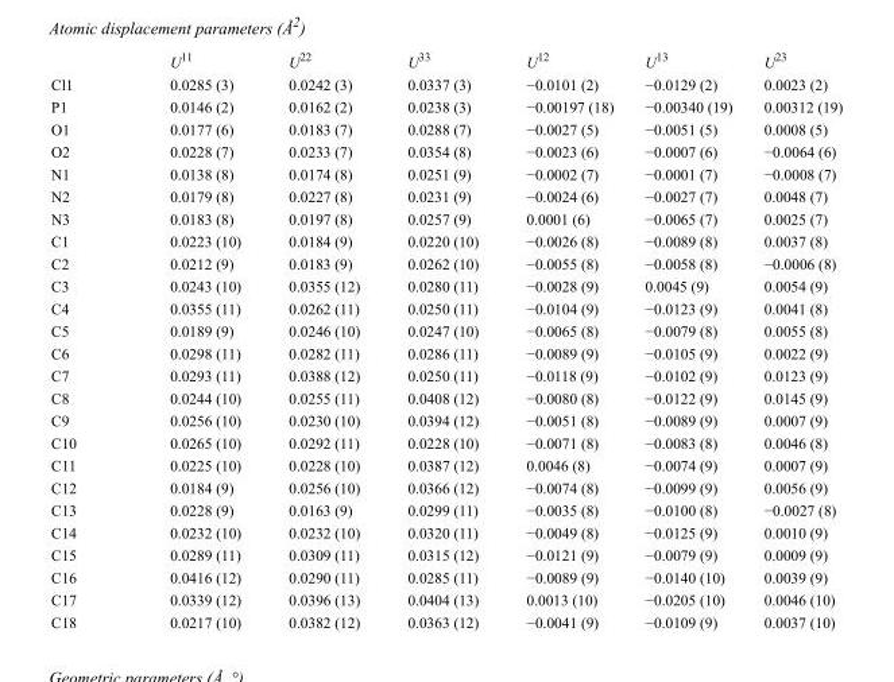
<table><thead><tr><td></td><td>U<sup>11</sup></td><td>U<sup>22</sup></td><td>U<sup>33</sup></td><td>U<sup>12</sup></td><td>U<sup>13</sup></td><td>U<sup>23</sup></td></tr></thead><tbody><tr><td>Cl1</td><td>0.0285 (3)</td><td>0.0242 (3)</td><td>0.0337 (3)</td><td>−0.0101 (2)</td><td>−0.0129 (2)</td><td>0.0023 (2)</td></tr><tr><td>P1</td><td>0.0146 (2)</td><td>0.0162 (2)</td><td>0.0238 (3)</td><td>−0.00197 (18)</td><td>−0.00340 (19)</td><td>0.00312 (19)</td></tr><tr><td>O1</td><td>0.0177 (6)</td><td>0.0183 (7)</td><td>0.0288 (7)</td><td>−0.0027 (5)</td><td>−0.0051 (5)</td><td>0.0008 (5)</td></tr><tr><td>O2</td><td>0.0228 (7)</td><td>0.0233 (7)</td><td>0.0354 (8)</td><td>−0.0023 (6)</td><td>−0.0007 (6)</td><td>−0.0064 (6)</td></tr><tr><td>N1</td><td>0.0138 (8)</td><td>0.0174 (8)</td><td>0.0251 (9)</td><td>−0.0002 (7)</td><td>−0.0001 (7)</td><td>−0.0008 (7)</td></tr><tr><td>N2</td><td>0.0179 (8)</td><td>0.0227 (8)</td><td>0.0231 (9)</td><td>−0.0024 (6)</td><td>−0.0027 (7)</td><td>0.0048 (7)</td></tr><tr><td>N3</td><td>0.0183 (8)</td><td>0.0197 (8)</td><td>0.0257 (9)</td><td>0.0001 (6)</td><td>−0.0065 (7)</td><td>0.0025 (7)</td></tr><tr><td>C1</td><td>0.0223 (10)</td><td>0.0184 (9)</td><td>0.0220 (10)</td><td>−0.0026 (8)</td><td>−0.0089 (8)</td><td>0.0037 (8)</td></tr><tr><td>C2</td><td>0.0212 (9)</td><td>0.0183 (9)</td><td>0.0262 (10)</td><td>−0.0055 (8)</td><td>−0.0058 (8)</td><td>−0.0006 (8)</td></tr><tr><td>C3</td><td>0.0243 (10)</td><td>0.0355 (12)</td><td>0.0280 (11)</td><td>−0.0028 (9)</td><td>0.0045 (9)</td><td>0.0054 (9)</td></tr><tr><td>C4</td><td>0.0355 (11)</td><td>0.0262 (11)</td><td>0.0250 (11)</td><td>−0.0104 (9)</td><td>−0.0123 (9)</td><td>0.0041 (8)</td></tr><tr><td>C5</td><td>0.0189 (9)</td><td>0.0246 (10)</td><td>0.0247 (10)</td><td>−0.0065 (8)</td><td>−0.0079 (8)</td><td>0.0055 (8)</td></tr><tr><td>C6</td><td>0.0298 (11)</td><td>0.0282 (11)</td><td>0.0286 (11)</td><td>−0.0089 (9)</td><td>−0.0105 (9)</td><td>0.0022 (9)</td></tr><tr><td>C7</td><td>0.0293 (11)</td><td>0.0388 (12)</td><td>0.0250 (11)</td><td>−0.0118 (9)</td><td>−0.0102 (9)</td><td>0.0123 (9)</td></tr><tr><td>C8</td><td>0.0244 (10)</td><td>0.0255 (11)</td><td>0.0408 (12)</td><td>−0.0080 (8)</td><td>−0.0122 (9)</td><td>0.0145 (9)</td></tr><tr><td>C9</td><td>0.0256 (10)</td><td>0.0230 (10)</td><td>0.0394 (12)</td><td>−0.0051 (8)</td><td>−0.0089 (9)</td><td>0.0007 (9)</td></tr><tr><td>C10</td><td>0.0265 (10)</td><td>0.0292 (11)</td><td>0.0228 (10)</td><td>−0.0071 (8)</td><td>−0.0083 (8)</td><td>0.0046 (8)</td></tr><tr><td>C11</td><td>0.0225 (10)</td><td>0.0228 (10)</td><td>0.0387 (12)</td><td>0.0046 (8)</td><td>−0.0074 (9)</td><td>0.0007 (9)</td></tr><tr><td>C12</td><td>0.0184 (9)</td><td>0.0256 (10)</td><td>0.0366 (12)</td><td>−0.0074 (8)</td><td>−0.0099 (9)</td><td>0.0056 (9)</td></tr><tr><td>C13</td><td>0.0228 (9)</td><td>0.0163 (9)</td><td>0.0299 (11)</td><td>−0.0035 (8)</td><td>−0.0100 (8)</td><td>−0.0027 (8)</td></tr><tr><td>C14</td><td>0.0232 (10)</td><td>0.0232 (10)</td><td>0.0320 (11)</td><td>−0.0049 (8)</td><td>−0.0125 (9)</td><td>0.0010 (9)</td></tr><tr><td>C15</td><td>0.0289 (11)</td><td>0.0309 (11)</td><td>0.0315 (12)</td><td>−0.0121 (9)</td><td>−0.0079 (9)</td><td>0.0009 (9)</td></tr><tr><td>C16</td><td>0.0416 (12)</td><td>0.0290 (11)</td><td>0.0285 (11)</td><td>−0.0089 (9)</td><td>−0.0140 (10)</td><td>0.0039 (9)</td></tr><tr><td>C17</td><td>0.0339 (12)</td><td>0.0396 (13)</td><td>0.0404 (13)</td><td>0.0013 (10)</td><td>−0.0205 (10)</td><td>0.0046 (10)</td></tr><tr><td>C18</td><td>0.0217 (10)</td><td>0.0382 (12)</td><td>0.0363 (12)</td><td>−0.0041 (9)</td><td>−0.0109 (9)</td><td>0.0037 (10)</td></tr></tbody></table>